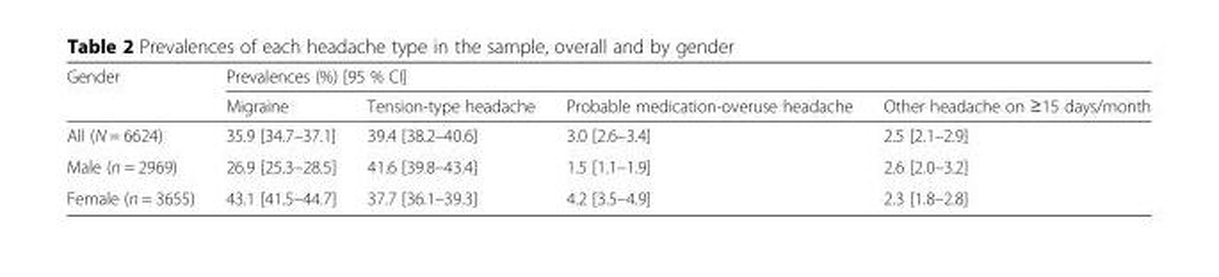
<table><thead><tr><td rowspan="2">Gender</td><td colspan="4">Prevalences (%) [95 % CI]</td></tr><tr><td>Migraine</td><td>Tension-type headache</td><td>Probable medication-overuse headache</td><td>Other headache on ≥15 days/month</td></tr></thead><tbody><tr><td>All (N = 6624)</td><td>35.9 [34.7–37.1]</td><td>39.4 [38.2–40.6]</td><td>3.0 [2.6–3.4]</td><td>2.5 [2.1–2.9]</td></tr><tr><td>Male (n = 2969)</td><td>26.9 [25.3–28.5]</td><td>41.6 [39.8–43.4]</td><td>1.5 [1.1–1.9]</td><td>2.6 [2.0–3.2]</td></tr><tr><td>Female (n = 3655)</td><td>43.1 [41.5–44.7]</td><td>37.7 [36.1–39.3]</td><td>4.2 [3.5–4.9]</td><td>2.3 [1.8–2.8]</td></tr></tbody></table>